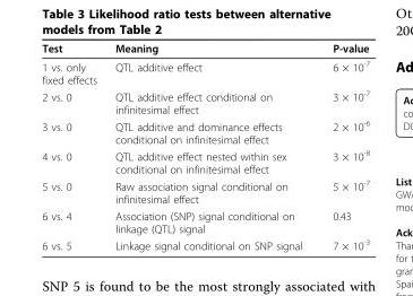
<table><thead><tr><td>Test</td><td>Meaning</td><td>P-value</td></tr></thead><tbody><tr><td>1 vs. only fixed effects</td><td>QTL additive effect</td><td>6 × 10<sup>-7</sup></td></tr><tr><td>2 vs. 0</td><td>QTL additive effect conditional on infinitesimal effect</td><td>3 × 10<sup>-7</sup></td></tr><tr><td>3 vs. 0</td><td>QTL additive and dominance effects conditional on infinitesimal effect</td><td>2 × 10<sup>-6</sup></td></tr><tr><td>4 vs. 0</td><td>QTL additive effect nested within sex conditional on infinitesimal effect</td><td>3 × 10<sup>-8</sup></td></tr><tr><td>5 vs. 0</td><td>Raw association signal conditional on infinitesimal effect</td><td>5 × 10<sup>-7</sup></td></tr><tr><td>6 vs. 4</td><td>Association (SNP) signal conditional on linkage (QTL) signal</td><td>0.43</td></tr><tr><td>6 vs. 5</td><td>Linkage signal conditional on SNP signal</td><td>7 × 10<sup>-3</sup></td></tr></tbody></table>